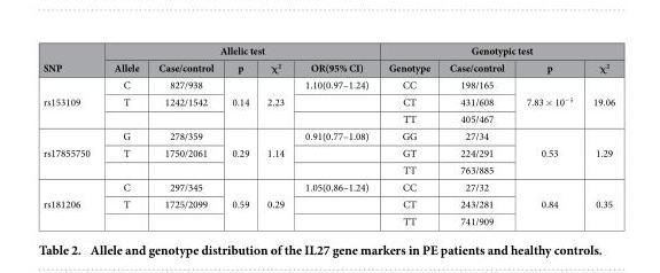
<table><thead><tr><td rowspan="2">SNP</td><td colspan="5">Allelic test</td><td colspan="4">Genotypic test</td></tr><tr><td>Allele</td><td>Case/control</td><td>p</td><td>χ<sup>2</sup></td><td>OR(95% CI)</td><td>Genotype</td><td>Case/control</td><td>p</td><td>χ<sup>2</sup></td></tr></thead><tbody><tr><td rowspan="3">rs153109</td><td>C</td><td>827/938</td><td rowspan="3">0.14</td><td rowspan="3">2.23</td><td>1.10(0.97–1.24)</td><td>CC</td><td>198/165</td><td rowspan="3">7.83 × 10<sup>−5</sup></td><td rowspan="3">19.06</td></tr><tr><td>T</td><td>1242/1542</td><td></td><td>CT</td><td>431/608</td></tr><tr><td></td><td></td><td></td><td>TT</td><td>405/467</td></tr><tr><td rowspan="3">rs17855750</td><td>G</td><td>278/359</td><td rowspan="3">0.29</td><td rowspan="3">1.14</td><td>0.91(0.77–1.08)</td><td>GG</td><td>27/34</td><td rowspan="3">0.53</td><td rowspan="3">1.29</td></tr><tr><td>T</td><td>1750/2061</td><td></td><td>GT</td><td>224/291</td></tr><tr><td></td><td></td><td></td><td>TT</td><td>763/885</td></tr><tr><td rowspan="3">rs181206</td><td>C</td><td>297/345</td><td rowspan="3">0.59</td><td rowspan="3">0.29</td><td>1.05(0.86–1.24)</td><td>CC</td><td>27/32</td><td rowspan="3">0.84</td><td rowspan="3">0.35</td></tr><tr><td>T</td><td>1725/2099</td><td></td><td>CT</td><td>243/281</td></tr><tr><td></td><td></td><td></td><td>TT</td><td>741/909</td></tr></tbody></table>